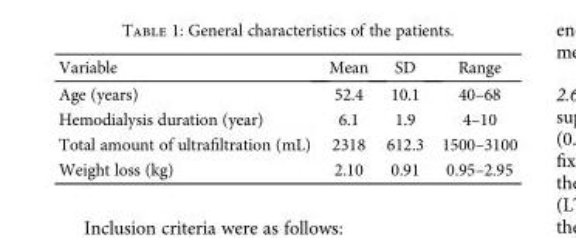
<table><thead><tr><td>Variable</td><td>Mean</td><td>SD</td><td>Range</td></tr></thead><tbody><tr><td>Age (years)</td><td>52.4</td><td>10.1</td><td>40–68</td></tr><tr><td>Hemodialysis duration (year)</td><td>6.1</td><td>1.9</td><td>4–10</td></tr><tr><td>Total amount of ultrafiltration (mL)</td><td>2318</td><td>612.3</td><td>1500–3100</td></tr><tr><td>Weight loss (kg)</td><td>2.10</td><td>0.91</td><td>0.95–2.95</td></tr></tbody></table>